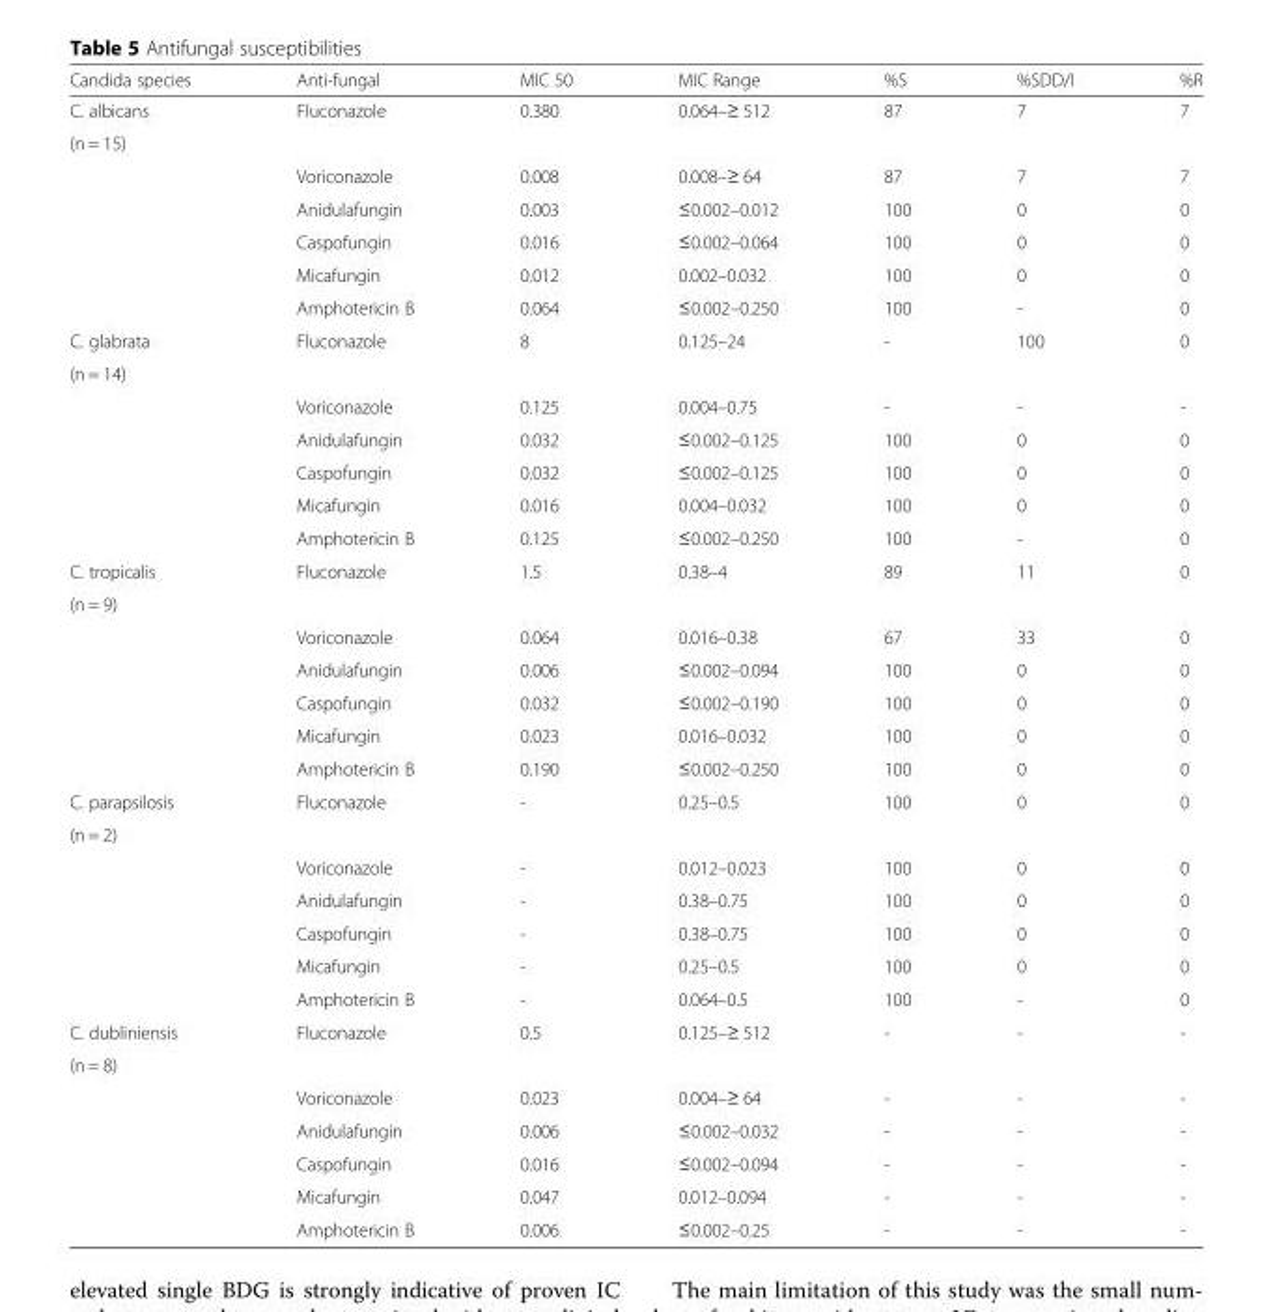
<table><thead><tr><td>Candida species</td><td>Anti-fungal</td><td>MIC 50</td><td>MIC Range</td><td>%S</td><td>%SDD/I</td><td>%R</td></tr></thead><tbody><tr><td>C. albicans</td><td rowspan="2">Fluconazole</td><td rowspan="2">0.380</td><td rowspan="2">0.064–≥ 512</td><td rowspan="2">87</td><td rowspan="2">7</td><td rowspan="2">7</td></tr><tr><td rowspan="6">(n = 15)</td></tr><tr><td>Voriconazole</td><td>0.008</td><td>0.008–≥ 64</td><td>87</td><td>7</td><td>7</td></tr><tr><td>Anidulafungin</td><td>0.003</td><td>≤0.002–0.012</td><td>100</td><td>0</td><td>0</td></tr><tr><td>Caspofungin</td><td>0.016</td><td>≤0.002–0.064</td><td>100</td><td>0</td><td>0</td></tr><tr><td>Micafungin</td><td>0.012</td><td>0.002–0.032</td><td>100</td><td>0</td><td>0</td></tr><tr><td>Amphotericin B</td><td>0.064</td><td>≤0.002–0.250</td><td>100</td><td>-</td><td>0</td></tr><tr><td>C. glabrata</td><td rowspan="2">Fluconazole</td><td rowspan="2">8</td><td rowspan="2">0.125–24</td><td rowspan="2">-</td><td rowspan="2">100</td><td rowspan="2">0</td></tr><tr><td rowspan="6">(n = 14)</td></tr><tr><td>Voriconazole</td><td>0.125</td><td>0.004–0.75</td><td>-</td><td>-</td><td>-</td></tr><tr><td>Anidulafungin</td><td>0.032</td><td>≤0.002–0.125</td><td>100</td><td>0</td><td>0</td></tr><tr><td>Caspofungin</td><td>0.032</td><td>≤0.002–0.125</td><td>100</td><td>0</td><td>0</td></tr><tr><td>Micafungin</td><td>0.016</td><td>0.004–0.032</td><td>100</td><td>0</td><td>0</td></tr><tr><td>Amphotericin B</td><td>0.125</td><td>≤0.002–0.250</td><td>100</td><td>-</td><td>0</td></tr><tr><td>C. tropicalis</td><td rowspan="2">Fluconazole</td><td rowspan="2">1.5</td><td rowspan="2">0.38–4</td><td rowspan="2">89</td><td rowspan="2">11</td><td rowspan="2">0</td></tr><tr><td rowspan="6">(n = 9)</td></tr><tr><td>Voriconazole</td><td>0.064</td><td>0.016–0.38</td><td>67</td><td>33</td><td>0</td></tr><tr><td>Anidulafungin</td><td>0.006</td><td>≤0.002–0.094</td><td>100</td><td>0</td><td>0</td></tr><tr><td>Caspofungin</td><td>0.032</td><td>≤0.002–0.190</td><td>100</td><td>0</td><td>0</td></tr><tr><td>Micafungin</td><td>0.023</td><td>0.016–0.032</td><td>100</td><td>0</td><td>0</td></tr><tr><td>Amphotericin B</td><td>0.190</td><td>≤0.002–0.250</td><td>100</td><td>0</td><td>0</td></tr><tr><td>C. parapsilosis</td><td rowspan="2">Fluconazole</td><td rowspan="2">-</td><td rowspan="2">0.25–0.5</td><td rowspan="2">100</td><td rowspan="2">0</td><td rowspan="2">0</td></tr><tr><td rowspan="6">(n = 2)</td></tr><tr><td>Voriconazole</td><td>-</td><td>0.012–0.023</td><td>100</td><td>0</td><td>0</td></tr><tr><td>Anidulafungin</td><td>-</td><td>0.38–0.75</td><td>100</td><td>0</td><td>0</td></tr><tr><td>Caspofungin</td><td>-</td><td>0.38–0.75</td><td>100</td><td>0</td><td>0</td></tr><tr><td>Micafungin</td><td>-</td><td>0.25–0.5</td><td>100</td><td>0</td><td>0</td></tr><tr><td>Amphotericin B</td><td>-</td><td>0.064–0.5</td><td>100</td><td>-</td><td>0</td></tr><tr><td>C. dubliniensis</td><td rowspan="2">Fluconazole</td><td rowspan="2">0.5</td><td rowspan="2">0.125–≥ 512</td><td rowspan="2">-</td><td rowspan="2">-</td><td rowspan="2">-</td></tr><tr><td rowspan="6">(n = 8)</td></tr><tr><td>Voriconazole</td><td>0.023</td><td>0.004–≥ 64</td><td>-</td><td>-</td><td>-</td></tr><tr><td>Anidulafungin</td><td>0.006</td><td>≤0.002–0.032</td><td>-</td><td>-</td><td>-</td></tr><tr><td>Caspofungin</td><td>0.016</td><td>≤0.002–0.094</td><td>-</td><td>-</td><td>-</td></tr><tr><td>Micafungin</td><td>0.047</td><td>0.012–0.094</td><td>-</td><td>-</td><td>-</td></tr><tr><td>Amphotericin B</td><td>0.006</td><td>≤0.002–0.25</td><td>-</td><td>-</td><td>-</td></tr></tbody></table>